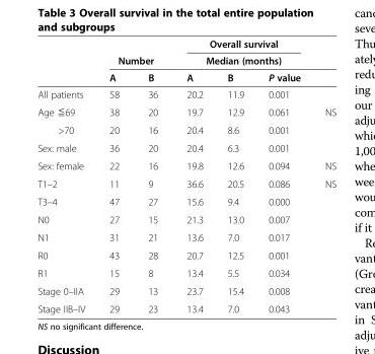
<table><thead><tr><td rowspan="3"></td><td></td><td></td><td rowspan="2" colspan="3">Overall survival Median (months)</td><td rowspan="3"></td></tr><tr><td colspan="2">Number</td></tr><tr><td>A</td><td>B</td><td>A</td><td>B</td><td>P value</td></tr></thead><tbody><tr><td>All patients</td><td>58</td><td>36</td><td>20.2</td><td>11.9</td><td>0.001</td><td></td></tr><tr><td>Age ≦69</td><td>38</td><td>20</td><td>19.7</td><td>12.9</td><td>0.061</td><td>NS</td></tr><tr><td>&gt;70</td><td>20</td><td>16</td><td>20.4</td><td>8.6</td><td>0.001</td><td></td></tr><tr><td>Sex: male</td><td>36</td><td>20</td><td>20.4</td><td>6.3</td><td>0.001</td><td></td></tr><tr><td>Sex: female</td><td>22</td><td>16</td><td>19.8</td><td>12.6</td><td>0.094</td><td>NS</td></tr><tr><td>T1–2</td><td>11</td><td>9</td><td>36.6</td><td>20.5</td><td>0.086</td><td>NS</td></tr><tr><td>T3–4</td><td>47</td><td>27</td><td>15.6</td><td>9.4</td><td>0.000</td><td></td></tr><tr><td>N0</td><td>27</td><td>15</td><td>21.3</td><td>13.0</td><td>0.007</td><td></td></tr><tr><td>N1</td><td>31</td><td>21</td><td>13.6</td><td>7.0</td><td>0.017</td><td></td></tr><tr><td>R0</td><td>43</td><td>28</td><td>20.7</td><td>12.5</td><td>0.001</td><td></td></tr><tr><td>R1</td><td>15</td><td>8</td><td>13.4</td><td>5.5</td><td>0.034</td><td></td></tr><tr><td>Stage 0–IIA</td><td>29</td><td>13</td><td>23.7</td><td>15.4</td><td>0.008</td><td></td></tr><tr><td>Stage IIB–IV</td><td>29</td><td>23</td><td>13.4</td><td>7.0</td><td>0.043</td><td></td></tr></tbody></table>